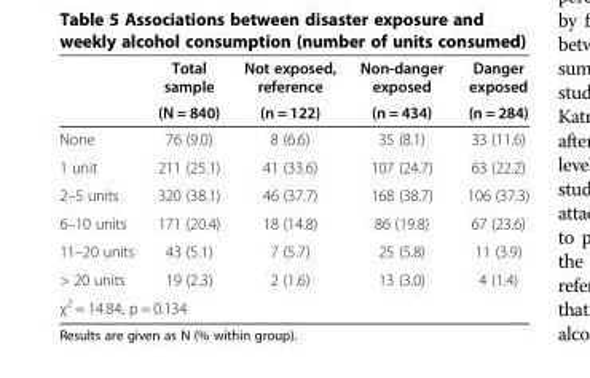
<table><thead><tr><td rowspan="2"></td><td rowspan="2">Total sample (N = 840)</td><td rowspan="2">Not exposed, reference (n = 122)</td><td rowspan="2">Non-danger exposed (n = 434)</td><td rowspan="2">Danger exposed (n = 284)</td></tr><tr></tr></thead><tbody><tr><td>None</td><td>76 (9.0)</td><td>8 (6.6)</td><td>35 (8.1)</td><td>33 (11.6)</td></tr><tr><td>1 unit</td><td>211 (25.1)</td><td>41 (33.6)</td><td>107 (24.7)</td><td>63 (22.2)</td></tr><tr><td>2–5 units</td><td>320 (38.1)</td><td>46 (37.7)</td><td>168 (38.7)</td><td>106 (37.3)</td></tr><tr><td>6–10 units</td><td>171 (20.4)</td><td>18 (14.8)</td><td>86 (19.8)</td><td>67 (23.6)</td></tr><tr><td>11–20 units</td><td>43 (5.1)</td><td>7 (5.7)</td><td>25 (5.8)</td><td>11 (3.9)</td></tr><tr><td>&gt; 20 units</td><td>19 (2.3)</td><td>2 (1.6)</td><td>13 (3.0)</td><td>4 (1.4)</td></tr><tr><td colspan="5">χ<sup>2</sup> = 14.84, p = 0.134</td></tr></tbody></table>